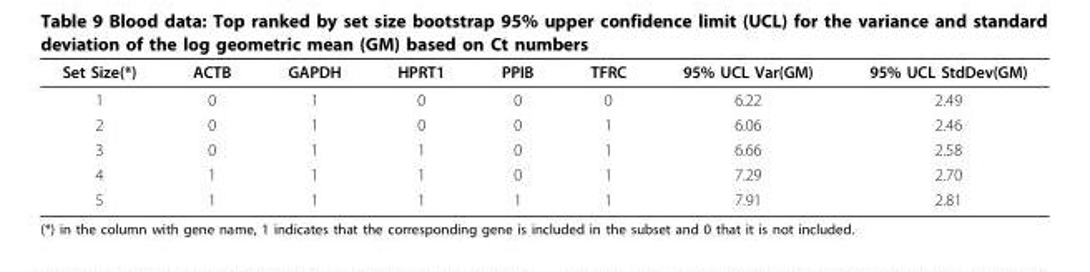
<table><thead><tr><td>Set Size(*)</td><td>ACTB</td><td>GAPDH</td><td>HPRT1</td><td>PPIB</td><td>TFRC</td><td>95% UCL Var(GM)</td><td>95% UCL StdDev(GM)</td></tr></thead><tbody><tr><td>1</td><td>0</td><td>1</td><td>0</td><td>0</td><td>0</td><td>6.22</td><td>2.49</td></tr><tr><td>2</td><td>0</td><td>1</td><td>0</td><td>0</td><td>1</td><td>6.06</td><td>2.46</td></tr><tr><td>3</td><td>0</td><td>1</td><td>1</td><td>0</td><td>1</td><td>6.66</td><td>2.58</td></tr><tr><td>4</td><td>1</td><td>1</td><td>1</td><td>0</td><td>1</td><td>7.29</td><td>2.70</td></tr><tr><td>5</td><td>1</td><td>1</td><td>1</td><td>1</td><td>1</td><td>7.91</td><td>2.81</td></tr></tbody></table>